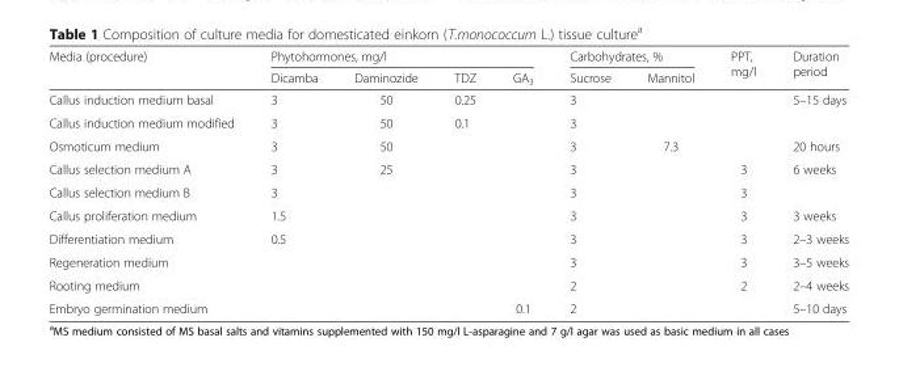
<table><thead><tr><td rowspan="2">Media (procedure)</td><td colspan="4">Phytohormones, mg/l</td><td colspan="2">Carbohydrates, %</td><td rowspan="2">PPT, mg/l</td><td rowspan="2">Duration period</td></tr><tr><td>Dicamba</td><td>Daminozide</td><td>TDZ</td><td>GA<sub>3</sub></td><td>Sucrose</td><td>Mannitol</td></tr></thead><tbody><tr><td>Callus induction medium basal</td><td>3</td><td>50</td><td>0.25</td><td></td><td>3</td><td></td><td></td><td rowspan="2">5–15 days</td></tr><tr><td>Callus induction medium modified</td><td>3</td><td>50</td><td>0.1</td><td></td><td>3</td><td></td><td></td></tr><tr><td>Osmoticum medium</td><td>3</td><td>50</td><td></td><td></td><td>3</td><td>7.3</td><td></td><td>20 hours</td></tr><tr><td>Callus selection medium A</td><td>3</td><td>25</td><td></td><td></td><td>3</td><td></td><td>3</td><td rowspan="2">6 weeks</td></tr><tr><td>Callus selection medium B</td><td>3</td><td></td><td></td><td></td><td>3</td><td></td><td>3</td></tr><tr><td>Callus proliferation medium</td><td>1.5</td><td></td><td></td><td></td><td>3</td><td></td><td>3</td><td>3 weeks</td></tr><tr><td>Differentiation medium</td><td>0.5</td><td></td><td></td><td></td><td>3</td><td></td><td>3</td><td>2–3 weeks</td></tr><tr><td>Regeneration medium</td><td></td><td></td><td></td><td></td><td>3</td><td></td><td>3</td><td>3–5 weeks</td></tr><tr><td>Rooting medium</td><td></td><td></td><td></td><td></td><td>2</td><td></td><td>2</td><td>2–4 weeks</td></tr><tr><td>Embryo germination medium</td><td></td><td></td><td></td><td>0.1</td><td>2</td><td></td><td></td><td>5–10 days</td></tr></tbody></table>